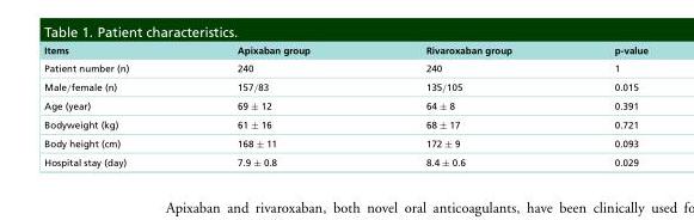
<table><thead><tr><td>Items</td><td>Apixaban group</td><td>Rivaroxaban group</td><td>p-value</td></tr></thead><tbody><tr><td>Patient number (n)</td><td>240</td><td>240</td><td>1</td></tr><tr><td>Male/female (n)</td><td>157/83</td><td>135/105</td><td>0.015</td></tr><tr><td>Age (year)</td><td>69 ± 12</td><td>64 ± 8</td><td>0.391</td></tr><tr><td>Bodyweight (kg)</td><td>61 ± 16</td><td>68 ± 17</td><td>0.721</td></tr><tr><td>Body height (cm)</td><td>168 ± 11</td><td>172 ± 9</td><td>0.093</td></tr><tr><td>Hospital stay (day)</td><td>7.9 ± 0.8</td><td>8.4 ± 0.6</td><td>0.029</td></tr></tbody></table>